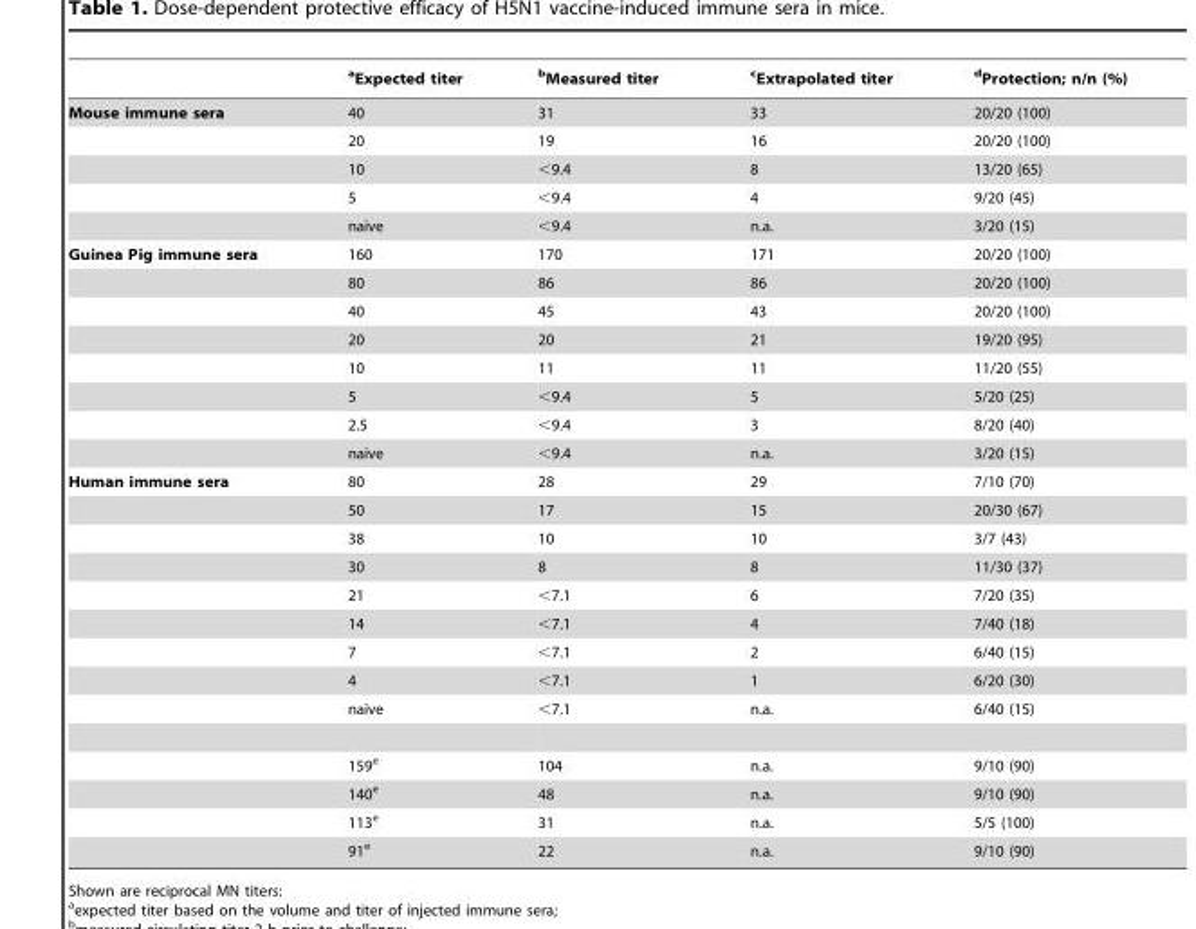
<table><thead><tr><td></td><td>aExpected titer</td><td>bMeasured titer</td><td>cExtrapolated titer</td><td>dProtection; n/n (%)</td></tr></thead><tbody><tr><td rowspan="5">Mouse immune sera</td><td>40</td><td>31</td><td>33</td><td>20/20 (100)</td></tr><tr><td>20</td><td>19</td><td>16</td><td>20/20 (100)</td></tr><tr><td>10</td><td>&lt;9.4</td><td>8</td><td>13/20 (65)</td></tr><tr><td>5</td><td>&lt;9.4</td><td>4</td><td>9/20 (45)</td></tr><tr><td>naive</td><td>&lt;9.4</td><td>n.a.</td><td>3/20 (15)</td></tr><tr><td rowspan="8">Guinea Pig immune sera</td><td>160</td><td>170</td><td>171</td><td>20/20 (100)</td></tr><tr><td>80</td><td>86</td><td>86</td><td>20/20 (100)</td></tr><tr><td>40</td><td>45</td><td>43</td><td>20/20 (100)</td></tr><tr><td>20</td><td>20</td><td>21</td><td>19/20 (95)</td></tr><tr><td>10</td><td>11</td><td>11</td><td>11/20 (55)</td></tr><tr><td>5</td><td>&lt;9.4</td><td>5</td><td>5/20 (25)</td></tr><tr><td>2.5</td><td>&lt;9.4</td><td>3</td><td>8/20 (40)</td></tr><tr><td>naive</td><td>&lt;9.4</td><td>n.a.</td><td>3/20 (15)</td></tr><tr><td rowspan="13">Human immune sera</td><td>80</td><td>28</td><td>29</td><td>7/10 (70)</td></tr><tr><td>50</td><td>17</td><td>15</td><td>20/30 (67)</td></tr><tr><td>38</td><td>10</td><td>10</td><td>3/7 (43)</td></tr><tr><td>30</td><td>8</td><td>8</td><td>11/30 (37)</td></tr><tr><td>21</td><td>&lt;7.1</td><td>6</td><td>7/20 (35)</td></tr><tr><td>14</td><td>&lt;7.1</td><td>4</td><td>7/40 (18)</td></tr><tr><td>7</td><td>&lt;7.1</td><td>2</td><td>6/40 (15)</td></tr><tr><td>4</td><td>&lt;7.1</td><td>1</td><td>6/20 (30)</td></tr><tr><td>naive</td><td>&lt;7.1</td><td>n.a.</td><td>6/40 (15)</td></tr><tr><td>159<sup>e</sup></td><td>104</td><td>n.a.</td><td>9/10 (90)</td></tr><tr><td>140<sup>e</sup></td><td>48</td><td>n.a.</td><td>9/10 (90)</td></tr><tr><td>113<sup>e</sup></td><td>31</td><td>n.a.</td><td>5/5 (100)</td></tr><tr><td>91<sup>e</sup></td><td>22</td><td>n.a.</td><td>9/10 (90)</td></tr></tbody></table>